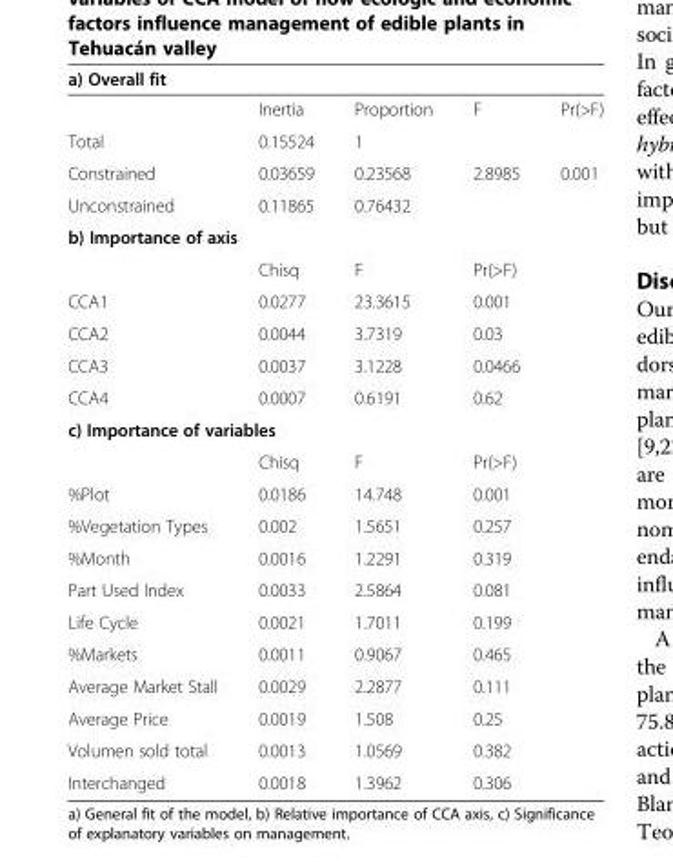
<table><thead><tr><td colspan="5">a) Overall fit</td></tr><tr><td></td><td>Inertia</td><td>Proportion</td><td>F</td><td>Pr(&gt;F)</td></tr></thead><tbody><tr><td>Total</td><td>0.15524</td><td>1</td><td></td><td></td></tr><tr><td>Constrained</td><td>0.03659</td><td>0.23568</td><td>2.8985</td><td>0.001</td></tr><tr><td>Unconstrained</td><td>0.11865</td><td>0.76432</td><td></td><td></td></tr><tr><td colspan="5">b) Importance of axis</td></tr><tr><td></td><td>Chisq</td><td>F</td><td>Pr(&gt;F)</td><td></td></tr><tr><td>CCA1</td><td>0.0277</td><td>23.3615</td><td>0.001</td><td></td></tr><tr><td>CCA2</td><td>0.0044</td><td>3.7319</td><td>0.03</td><td></td></tr><tr><td>CCA3</td><td>0.0037</td><td>3.1228</td><td>0.0466</td><td></td></tr><tr><td>CCA4</td><td>0.0007</td><td>0.6191</td><td>0.62</td><td></td></tr><tr><td colspan="5">c) Importance of variables</td></tr><tr><td></td><td>Chisq</td><td>F</td><td>Pr(&gt;F)</td><td></td></tr><tr><td>%Plot</td><td>0.0186</td><td>14.748</td><td>0.001</td><td></td></tr><tr><td>%Vegetation Types</td><td>0.002</td><td>1.5651</td><td>0.257</td><td></td></tr><tr><td>%Month</td><td>0.0016</td><td>1.2291</td><td>0.319</td><td></td></tr><tr><td>Part Used Index</td><td>0.0033</td><td>2.5864</td><td>0.081</td><td></td></tr><tr><td>Life Cycle</td><td>0.0021</td><td>1.7011</td><td>0.199</td><td></td></tr><tr><td>%Markets</td><td>0.0011</td><td>0.9067</td><td>0.465</td><td></td></tr><tr><td>Average Market Stall</td><td>0.0029</td><td>2.2877</td><td>0.111</td><td></td></tr><tr><td>Average Price</td><td>0.0019</td><td>1.508</td><td>0.25</td><td></td></tr><tr><td>Volumen sold total</td><td>0.0013</td><td>1.0569</td><td>0.382</td><td></td></tr><tr><td>Interchanged</td><td>0.0018</td><td>1.3962</td><td>0.306</td><td></td></tr></tbody></table>